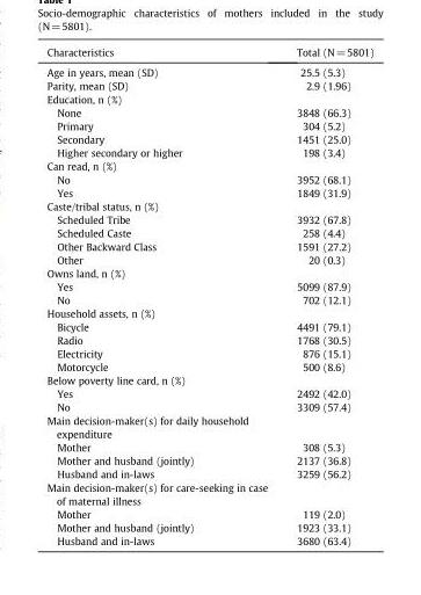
<table><thead><tr><td>Characteristics</td><td>Total (N=5801)</td></tr></thead><tbody><tr><td>Age in years, mean (SD)</td><td>25.5 (5.3)</td></tr><tr><td>Parity, mean (SD)</td><td>2.9 (1.96)</td></tr><tr><td colspan="2">Education, n (%)</td></tr><tr><td>None</td><td>3848 (66.3)</td></tr><tr><td>Primary</td><td>304 (5.2)</td></tr><tr><td>Secondary</td><td>1451 (25.0)</td></tr><tr><td>Higher secondary or higher</td><td>198 (3.4)</td></tr><tr><td colspan="2">Can read, n (%)</td></tr><tr><td>No</td><td>3952 (68.1)</td></tr><tr><td>Yes</td><td>1849 (31.9)</td></tr><tr><td colspan="2">Caste/tribal status, n (%)</td></tr><tr><td>Scheduled Tribe</td><td>3932 (67.8)</td></tr><tr><td>Scheduled Caste</td><td>258 (4.4)</td></tr><tr><td>Other Backward Class</td><td>1591 (27.2)</td></tr><tr><td>Other</td><td>20 (0.3)</td></tr><tr><td colspan="2">Owns land, n (%)</td></tr><tr><td>Yes</td><td>5099 (87.9)</td></tr><tr><td>No</td><td>702 (12.1)</td></tr><tr><td colspan="2">Household assets, n (%)</td></tr><tr><td>Bicycle</td><td>4491 (79.1)</td></tr><tr><td>Radio</td><td>1768 (30.5)</td></tr><tr><td>Electricity</td><td>876 (15.1)</td></tr><tr><td>Motorcycle</td><td>500 (8.6)</td></tr><tr><td colspan="2">Below poverty line card, n (%)</td></tr><tr><td>Yes</td><td>2492 (42.0)</td></tr><tr><td>No</td><td>3309 (57.4)</td></tr><tr><td colspan="2">Main decision-maker(s) for daily household expenditure</td></tr><tr><td>Mother</td><td>308 (5.3)</td></tr><tr><td>Mother and husband (jointly)</td><td>2137 (36.8)</td></tr><tr><td>Husband and in-laws</td><td>3259 (56.2)</td></tr><tr><td colspan="2">Main decision-maker(s) for care-seeking in case of maternal illness</td></tr><tr><td>Mother</td><td>119 (2.0)</td></tr><tr><td>Mother and husband (jointly)</td><td>1923 (33.1)</td></tr><tr><td>Husband and in-laws</td><td>3680 (63.4)</td></tr></tbody></table>